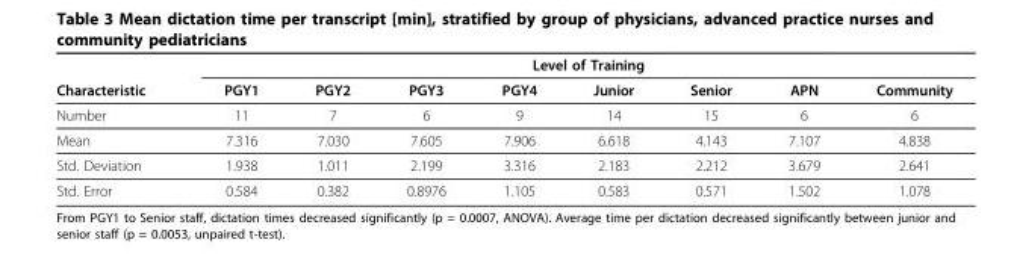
<table><thead><tr><td rowspan="2">Characteristic</td><td colspan="8">Level of Training</td></tr><tr><td>PGY1</td><td>PGY2</td><td>PGY3</td><td>PGY4</td><td>Junior</td><td>Senior</td><td>APN</td><td>Community</td></tr></thead><tbody><tr><td>Number</td><td>11</td><td>7</td><td>6</td><td>9</td><td>14</td><td>15</td><td>6</td><td>6</td></tr><tr><td>Mean</td><td>7.316</td><td>7.030</td><td>7.605</td><td>7.906</td><td>6.618</td><td>4.143</td><td>7.107</td><td>4.838</td></tr><tr><td>Std. Deviation</td><td>1.938</td><td>1.011</td><td>2.199</td><td>3.316</td><td>2.183</td><td>2.212</td><td>3.679</td><td>2.641</td></tr><tr><td>Std. Error</td><td>0.584</td><td>0.382</td><td>0.8976</td><td>1.105</td><td>0.583</td><td>0.571</td><td>1.502</td><td>1.078</td></tr></tbody></table>